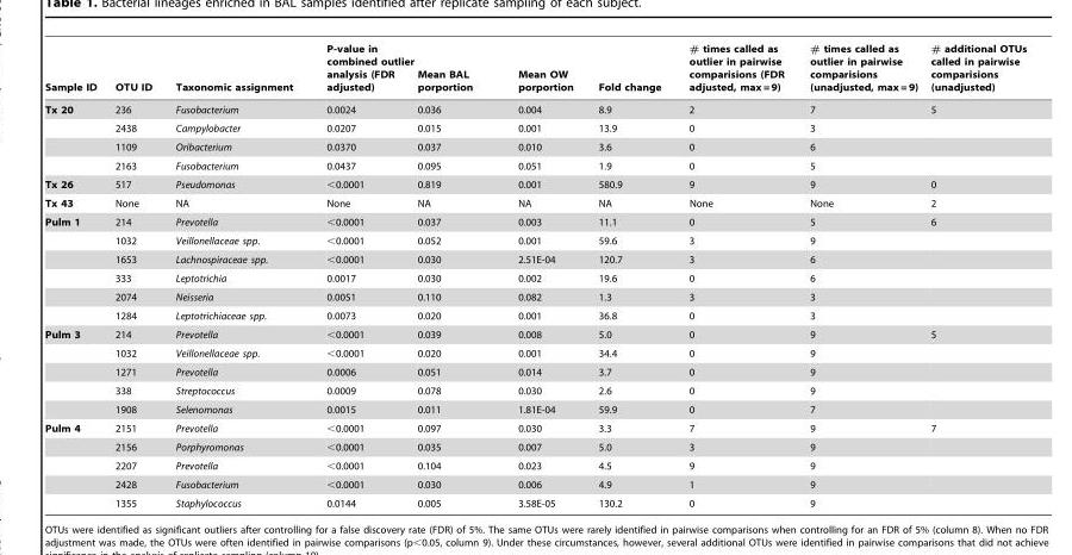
<table><thead><tr><td>Sample ID</td><td>OTU ID</td><td>Taxonomic assignment</td><td>P-value in combined outlier analysis (FDR adjusted)</td><td>Mean BAL porportion</td><td>Mean OW porportion</td><td>Fold change</td><td># times called as outlier in pairwise comparisions (FDR adjusted, max = 9)</td><td># times called as outlier in pairwise comparisions (unadjusted, max = 9)</td><td># additional OTUs called in pairwise comparisions (unadjusted)</td></tr></thead><tbody><tr><td rowspan="4">Tx 20</td><td>236</td><td>Fusobacterium</td><td>0.0024</td><td>0.036</td><td>0.004</td><td>8.9</td><td>2</td><td>7</td><td>5</td></tr><tr><td>2438</td><td>Campylobacter</td><td>0.0207</td><td>0.015</td><td>0.001</td><td>13.9</td><td>0</td><td>3</td><td></td></tr><tr><td>1109</td><td>Oribacterium</td><td>0.0370</td><td>0.037</td><td>0.010</td><td>3.6</td><td>0</td><td>6</td><td></td></tr><tr><td>2163</td><td>Fusobacterium</td><td>0.0437</td><td>0.095</td><td>0.051</td><td>1.9</td><td>0</td><td>5</td><td></td></tr><tr><td>Tx 26</td><td>517</td><td>Pseudomonas</td><td>&lt;0.0001</td><td>0.819</td><td>0.001</td><td>580.9</td><td>9</td><td>9</td><td>0</td></tr><tr><td>Tx 43</td><td>None</td><td>NA</td><td>None</td><td>NA</td><td>NA</td><td>NA</td><td>None</td><td>None</td><td>2</td></tr><tr><td rowspan="6">Pulm 1</td><td>214</td><td>Prevotella</td><td>&lt;0.0001</td><td>0.037</td><td>0.003</td><td>11.1</td><td>0</td><td>5</td><td>6</td></tr><tr><td>1032</td><td>Veillonellaceae spp.</td><td>&lt;0.0001</td><td>0.052</td><td>0.001</td><td>59.6</td><td>3</td><td>9</td><td></td></tr><tr><td>1653</td><td>Lachnospiraceae spp.</td><td>&lt;0.0001</td><td>0.030</td><td>2.51E-04</td><td>120.7</td><td>3</td><td>6</td><td></td></tr><tr><td>333</td><td>Leptotrichia</td><td>0.0017</td><td>0.030</td><td>0.002</td><td>19.6</td><td>0</td><td>6</td><td></td></tr><tr><td>2074</td><td>Neisseria</td><td>0.0051</td><td>0.110</td><td>0.082</td><td>1.3</td><td>3</td><td>3</td><td></td></tr><tr><td>1284</td><td>Leptotrichiaceae spp.</td><td>0.0073</td><td>0.020</td><td>0.001</td><td>36.8</td><td>0</td><td>3</td><td></td></tr><tr><td rowspan="5">Pulm 3</td><td>214</td><td>Prevotella</td><td>&lt;0.0001</td><td>0.039</td><td>0.008</td><td>5.0</td><td>0</td><td>9</td><td>5</td></tr><tr><td>1032</td><td>Veillonellaceae spp.</td><td>&lt;0.0001</td><td>0.020</td><td>0.001</td><td>34.4</td><td>0</td><td>9</td><td></td></tr><tr><td>1271</td><td>Prevotella</td><td>0.0006</td><td>0.051</td><td>0.014</td><td>3.7</td><td>0</td><td>9</td><td></td></tr><tr><td>338</td><td>Streptococcus</td><td>0.0009</td><td>0.078</td><td>0.030</td><td>2.6</td><td>0</td><td>9</td><td></td></tr><tr><td>1908</td><td>Selenomonas</td><td>0.0015</td><td>0.011</td><td>1.81E-04</td><td>59.9</td><td>0</td><td>7</td><td></td></tr><tr><td rowspan="5">Pulm 4</td><td>2151</td><td>Prevotella</td><td>&lt;0.0001</td><td>0.097</td><td>0.030</td><td>3.3</td><td>7</td><td>9</td><td>7</td></tr><tr><td>2156</td><td>Porphyromonas</td><td>&lt;0.0001</td><td>0.035</td><td>0.007</td><td>5.0</td><td>3</td><td>9</td><td></td></tr><tr><td>2207</td><td>Prevotella</td><td>&lt;0.0001</td><td>0.104</td><td>0.023</td><td>4.5</td><td>9</td><td>9</td><td></td></tr><tr><td>2428</td><td>Fusobacterium</td><td>&lt;0.0001</td><td>0.030</td><td>0.006</td><td>4.9</td><td>1</td><td>9</td><td></td></tr><tr><td>1355</td><td>Staphylococcus</td><td>0.0144</td><td>0.005</td><td>3.58E-05</td><td>130.2</td><td>0</td><td>9</td><td></td></tr></tbody></table>